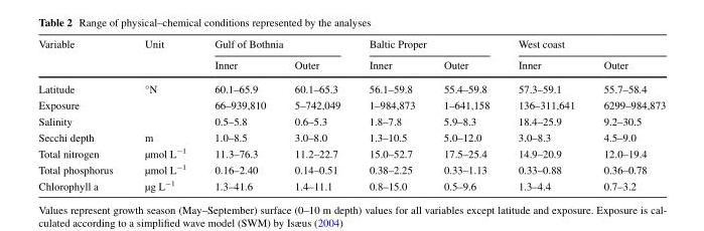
<table><thead><tr><td rowspan="2">Variable</td><td rowspan="2">Unit</td><td colspan="2">Gulf of Bothnia</td><td colspan="2">Baltic Proper</td><td colspan="2">West coast</td></tr><tr><td>Inner</td><td>Outer</td><td>Inner</td><td>Outer</td><td>Inner</td><td>Outer</td></tr></thead><tbody><tr><td>Latitude</td><td>°N</td><td>60.1–65.9</td><td>60.1–65.3</td><td>56.1–59.8</td><td>55.4–59.8</td><td>57.3–59.1</td><td>55.7–58.4</td></tr><tr><td>Exposure</td><td></td><td>66–939,810</td><td>5–742,049</td><td>1–984,873</td><td>1–641,158</td><td>136–311,641</td><td>6299–984,873</td></tr><tr><td>Salinity</td><td></td><td>0.5–5.8</td><td>0.6–5.3</td><td>1.8–7.8</td><td>5.9–8.3</td><td>18.4–25.9</td><td>9.2–30.5</td></tr><tr><td>Secchi depth</td><td>m</td><td>1.0–8.5</td><td>3.0–8.0</td><td>1.3–10.5</td><td>5.0–12.0</td><td>3.0–8.3</td><td>4.5–9.0</td></tr><tr><td>Total nitrogen</td><td>µmol L<sup>−1</sup></td><td>11.3–76.3</td><td>11.2–22.7</td><td>15.0–52.7</td><td>17.5–25.4</td><td>14.9–20.9</td><td>12.0–19.4</td></tr><tr><td>Total phosphorus</td><td>µmol L<sup>−1</sup></td><td>0.16–2.40</td><td>0.14–0.51</td><td>0.38–2.25</td><td>0.33–1.13</td><td>0.33–0.88</td><td>0.36–0.78</td></tr><tr><td>Chlorophyll a</td><td>µg L<sup>−1</sup></td><td>1.3–41.6</td><td>1.4–11.1</td><td>0.8–15.0</td><td>0.5–9.6</td><td>1.3–4.4</td><td>0.7–3.2</td></tr></tbody></table>